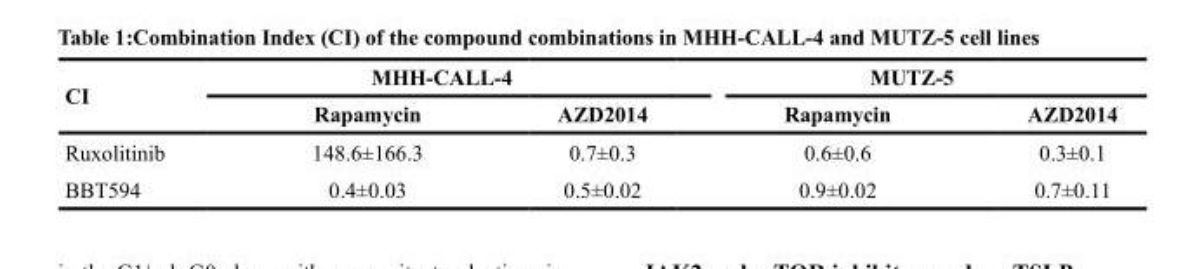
<table><thead><tr><td rowspan="2">CI</td><td colspan="2">MHH-CALL-4</td><td colspan="2">MUTZ-5</td></tr><tr><td>Rapamycin</td><td>AZD2014</td><td>Rapamycin</td><td>AZD2014</td></tr></thead><tbody><tr><td>Ruxolitinib</td><td>148.6±166.3</td><td>0.7±0.3</td><td>0.6±0.6</td><td>0.3±0.1</td></tr><tr><td>BBT594</td><td>0.4±0.03</td><td>0.5±0.02</td><td>0.9±0.02</td><td>0.7±0.11</td></tr></tbody></table>